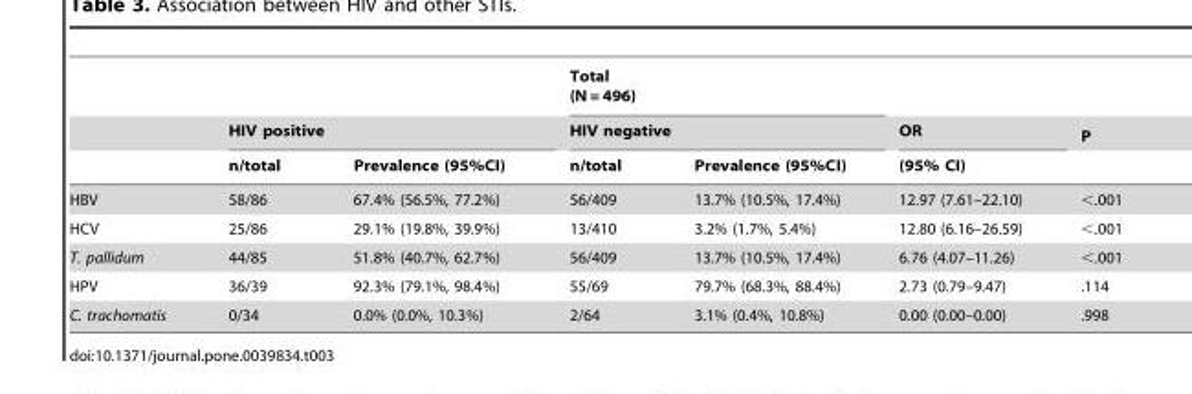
<table><thead><tr><td rowspan="3"></td><td></td><td></td><td rowspan="2" colspan="2">Total (N = 496) HIV negative</td><td rowspan="3">OR (95% CI)</td><td rowspan="3">P</td></tr><tr><td colspan="2">HIV positive</td></tr><tr><td>n/total</td><td>Prevalence (95%CI)</td><td>n/total</td><td>Prevalence (95%CI)</td></tr></thead><tbody><tr><td>HBV</td><td>58/86</td><td>67.4% (56.5%, 77.2%)</td><td>56/409</td><td>13.7% (10.5%, 17.4%)</td><td>12.97 (7.61–22.10)</td><td>&lt;.001</td></tr><tr><td>HCV</td><td>25/86</td><td>29.1% (19.8%, 39.9%)</td><td>13/410</td><td>3.2% (1.7%, 5.4%)</td><td>12.80 (6.16–26.59)</td><td>&lt;.001</td></tr><tr><td>T. pallidum</td><td>44/85</td><td>51.8% (40.7%, 62.7%)</td><td>56/409</td><td>13.7% (10.5%, 17.4%)</td><td>6.76 (4.07–11.26)</td><td>&lt;.001</td></tr><tr><td>HPV</td><td>36/39</td><td>92.3% (79.1%, 98.4%)</td><td>55/69</td><td>79.7% (68.3%, 88.4%)</td><td>2.73 (0.79–9.47)</td><td>.114</td></tr><tr><td>C. trachomatis</td><td>0/34</td><td>0.0% (0.0%, 10.3%)</td><td>2/64</td><td>3.1% (0.4%, 10.8%)</td><td>0.00 (0.00–0.00)</td><td>.998</td></tr></tbody></table>